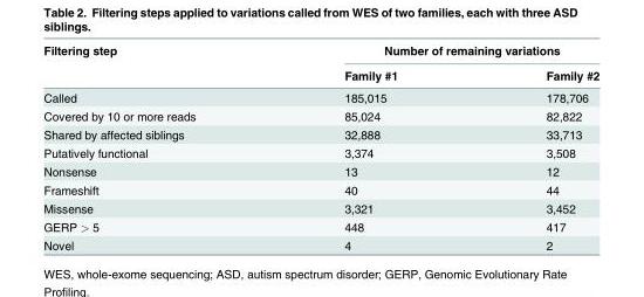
<table><thead><tr><td rowspan="2">Filtering step</td><td colspan="2">Number of remaining variations</td></tr><tr><td>Family #1</td><td>Family #2</td></tr></thead><tbody><tr><td>Called</td><td>185,015</td><td>178,706</td></tr><tr><td>Covered by 10 or more reads</td><td>85,024</td><td>82,822</td></tr><tr><td>Shared by affected siblings</td><td>32,888</td><td>33,713</td></tr><tr><td>Putatively functional</td><td>3,374</td><td>3,508</td></tr><tr><td>Nonsense</td><td>13</td><td>12</td></tr><tr><td>Frameshift</td><td>40</td><td>44</td></tr><tr><td>Missense</td><td>3,321</td><td>3,452</td></tr><tr><td>GERP &gt; 5</td><td>448</td><td>417</td></tr><tr><td>Novel</td><td>4</td><td>2</td></tr></tbody></table>